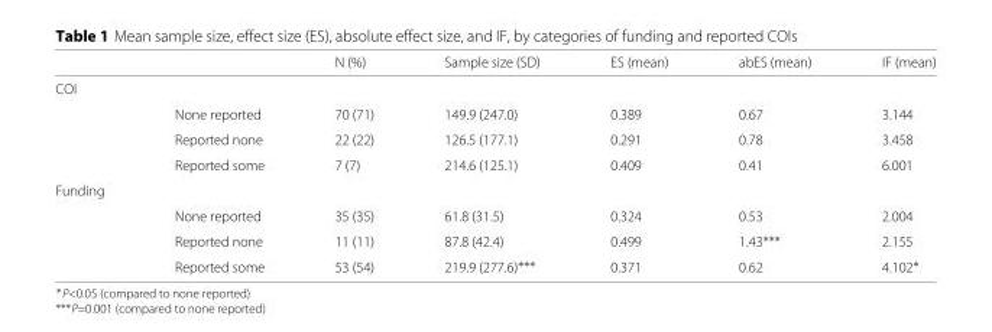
<table><thead><tr><td></td><td></td><td>N (%)</td><td>Sample size (SD)</td><td>ES (mean)</td><td>abES (mean)</td><td>IF (mean)</td></tr></thead><tbody><tr><td colspan="7">COI</td></tr><tr><td></td><td>None reported</td><td>70 (71)</td><td>149.9 (247.0)</td><td>0.389</td><td>0.67</td><td>3.144</td></tr><tr><td></td><td>Reported none</td><td>22 (22)</td><td>126.5 (177.1)</td><td>0.291</td><td>0.78</td><td>3.458</td></tr><tr><td></td><td>Reported some</td><td>7 (7)</td><td>214.6 (125.1)</td><td>0.409</td><td>0.41</td><td>6.001</td></tr><tr><td colspan="7">Funding</td></tr><tr><td></td><td>None reported</td><td>35 (35)</td><td>61.8 (31.5)</td><td>0.324</td><td>0.53</td><td>2.004</td></tr><tr><td></td><td>Reported none</td><td>11 (11)</td><td>87.8 (42.4)</td><td>0.499</td><td>1.43∗∗∗</td><td>2.155</td></tr><tr><td></td><td>Reported some</td><td>53 (54)</td><td>219.9 (277.6)∗∗∗</td><td>0.371</td><td>0.62</td><td>4.102∗</td></tr></tbody></table>